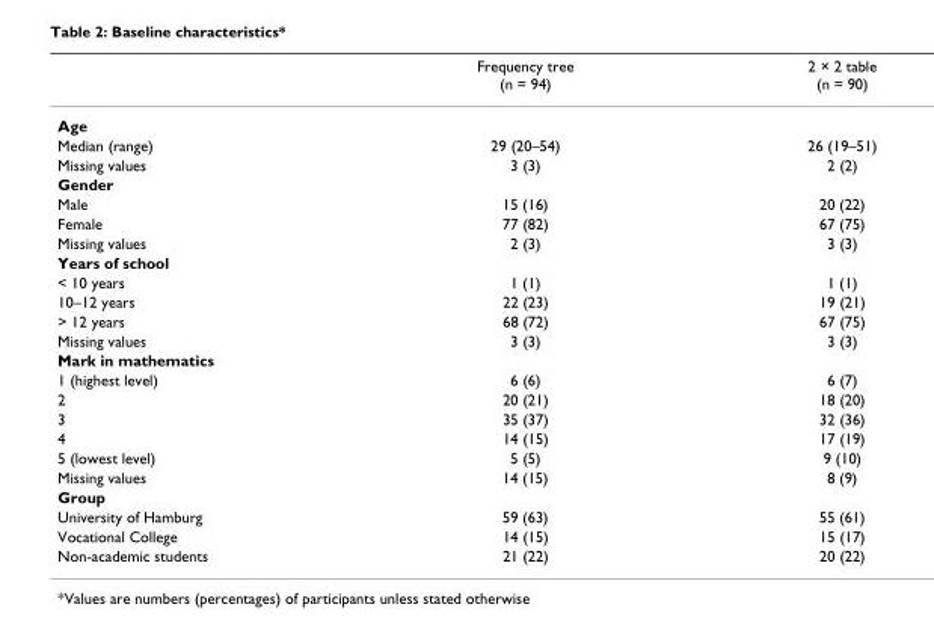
<table><thead><tr><td></td><td>Frequency tree (n = 94)</td><td>2 × 2 table (n = 90)</td></tr></thead><tbody><tr><td colspan="3">Age</td></tr><tr><td>Median (range)</td><td>29 (20–54)</td><td>26 (19–51)</td></tr><tr><td>Missing values</td><td>3 (3)</td><td>2 (2)</td></tr><tr><td colspan="3">Gender</td></tr><tr><td>Male</td><td>15 (16)</td><td>20 (22)</td></tr><tr><td>Female</td><td>77 (82)</td><td>67 (75)</td></tr><tr><td>Missing values</td><td>2 (3)</td><td>3 (3)</td></tr><tr><td colspan="3">Years of school</td></tr><tr><td>&lt; 10 years</td><td>1 (1)</td><td>1 (1)</td></tr><tr><td>10–12 years</td><td>22 (23)</td><td>19 (21)</td></tr><tr><td>&gt; 12 years</td><td>68 (72)</td><td>67 (75)</td></tr><tr><td>Missing values</td><td>3 (3)</td><td>3 (3)</td></tr><tr><td colspan="3">Mark in mathematics</td></tr><tr><td>1 (highest level)</td><td>6 (6)</td><td>6 (7)</td></tr><tr><td>2</td><td>20 (21)</td><td>18 (20)</td></tr><tr><td>3</td><td>35 (37)</td><td>32 (36)</td></tr><tr><td>4</td><td>14 (15)</td><td>17 (19)</td></tr><tr><td>5 (lowest level)</td><td>5 (5)</td><td>9 (10)</td></tr><tr><td>Missing values</td><td>14 (15)</td><td>8 (9)</td></tr><tr><td colspan="3">Group</td></tr><tr><td>University of Hamburg</td><td>59 (63)</td><td>55 (61)</td></tr><tr><td>Vocational College</td><td>14 (15)</td><td>15 (17)</td></tr><tr><td>Non-academic students</td><td>21 (22)</td><td>20 (22)</td></tr></tbody></table>